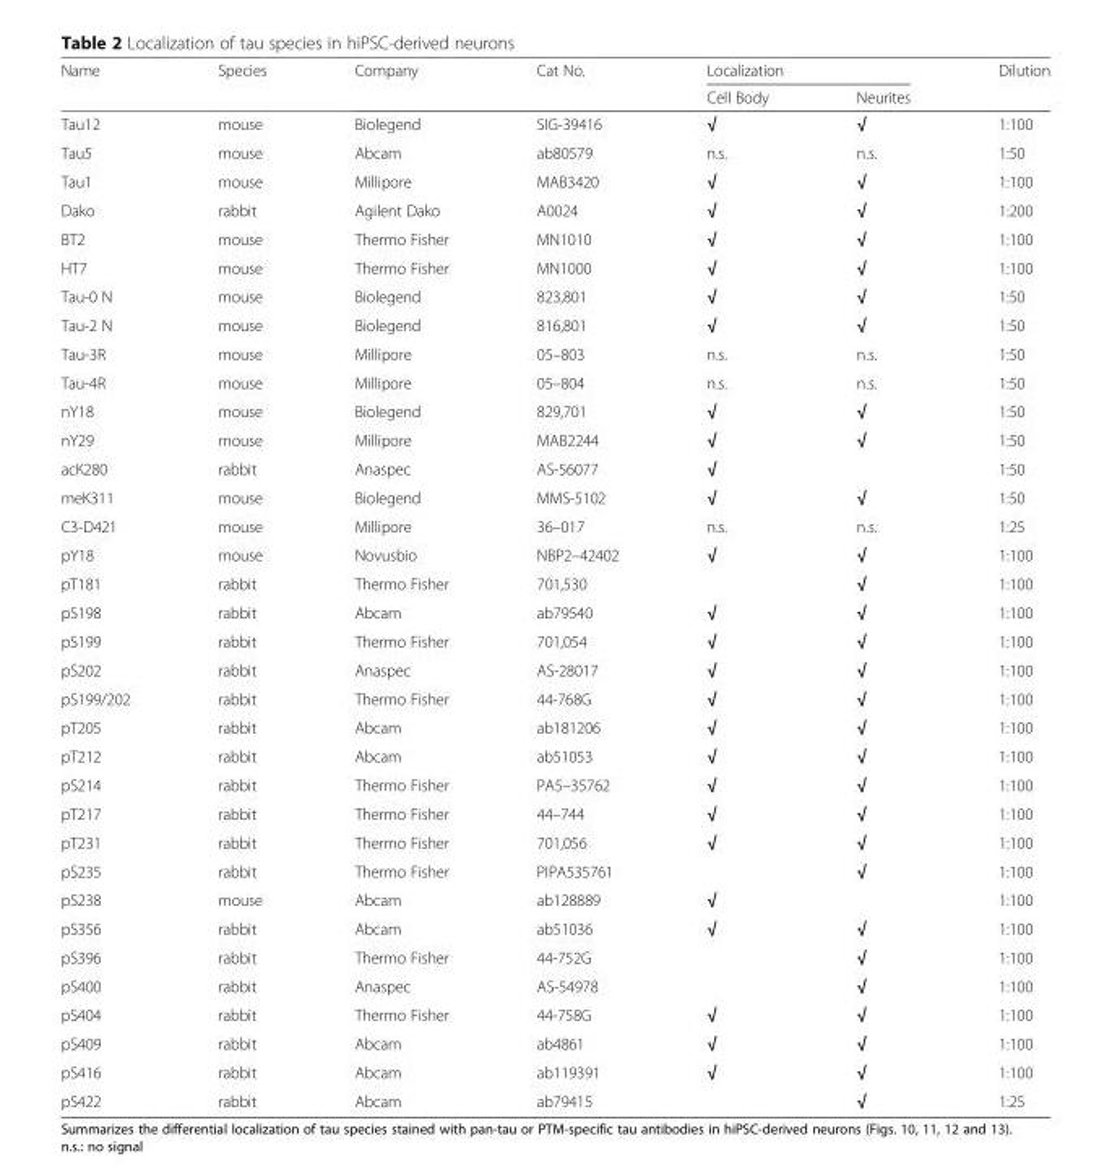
<table><thead><tr><td rowspan="2">Name</td><td rowspan="2">Species</td><td rowspan="2">Company</td><td rowspan="2">Cat No.</td><td colspan="2">Localization</td><td rowspan="2">Dilution</td></tr><tr><td>Cell Body</td><td>Neurites</td></tr></thead><tbody><tr><td>Tau12</td><td>mouse</td><td>Biolegend</td><td>SIG-39416</td><td>√</td><td>√</td><td>1:100</td></tr><tr><td>Tau5</td><td>mouse</td><td>Abcam</td><td>ab80579</td><td>n.s.</td><td>n.s.</td><td>1:50</td></tr><tr><td>Tau1</td><td>mouse</td><td>Millipore</td><td>MAB3420</td><td>√</td><td>√</td><td>1:100</td></tr><tr><td>Dako</td><td>rabbit</td><td>Agilent Dako</td><td>A0024</td><td>√</td><td>√</td><td>1:200</td></tr><tr><td>BT2</td><td>mouse</td><td>Thermo Fisher</td><td>MN1010</td><td>√</td><td>√</td><td>1:100</td></tr><tr><td>HT7</td><td>mouse</td><td>Thermo Fisher</td><td>MN1000</td><td>√</td><td>√</td><td>1:100</td></tr><tr><td>Tau-0 N</td><td>mouse</td><td>Biolegend</td><td>823,801</td><td>√</td><td>√</td><td>1:50</td></tr><tr><td>Tau-2 N</td><td>mouse</td><td>Biolegend</td><td>816,801</td><td>√</td><td>√</td><td>1:50</td></tr><tr><td>Tau-3R</td><td>mouse</td><td>Millipore</td><td>05–803</td><td>n.s.</td><td>n.s.</td><td>1:50</td></tr><tr><td>Tau-4R</td><td>mouse</td><td>Millipore</td><td>05–804</td><td>n.s.</td><td>n.s.</td><td>1:50</td></tr><tr><td>nY18</td><td>mouse</td><td>Biolegend</td><td>829,701</td><td>√</td><td>√</td><td>1:50</td></tr><tr><td>nY29</td><td>mouse</td><td>Millipore</td><td>MAB2244</td><td>√</td><td>√</td><td>1:50</td></tr><tr><td>acK280</td><td>rabbit</td><td>Anaspec</td><td>AS-56077</td><td>√</td><td></td><td>1:50</td></tr><tr><td>meK311</td><td>mouse</td><td>Biolegend</td><td>MMS-5102</td><td>√</td><td>√</td><td>1:50</td></tr><tr><td>C3-D421</td><td>mouse</td><td>Millipore</td><td>36–017</td><td>n.s.</td><td>n.s.</td><td>1:25</td></tr><tr><td>pY18</td><td>mouse</td><td>Novusbio</td><td>NBP2–42402</td><td>√</td><td>√</td><td>1:100</td></tr><tr><td>pT181</td><td>rabbit</td><td>Thermo Fisher</td><td>701,530</td><td></td><td>√</td><td>1:100</td></tr><tr><td>pS198</td><td>rabbit</td><td>Abcam</td><td>ab79540</td><td>√</td><td>√</td><td>1:100</td></tr><tr><td>pS199</td><td>rabbit</td><td>Thermo Fisher</td><td>701,054</td><td>√</td><td>√</td><td>1:100</td></tr><tr><td>pS202</td><td>rabbit</td><td>Anaspec</td><td>AS-28017</td><td>√</td><td>√</td><td>1:100</td></tr><tr><td>pS199/202</td><td>rabbit</td><td>Thermo Fisher</td><td>44-768G</td><td>√</td><td>√</td><td>1:100</td></tr><tr><td>pT205</td><td>rabbit</td><td>Abcam</td><td>ab181206</td><td>√</td><td>√</td><td>1:100</td></tr><tr><td>pT212</td><td>rabbit</td><td>Abcam</td><td>ab51053</td><td>√</td><td>√</td><td>1:100</td></tr><tr><td>pS214</td><td>rabbit</td><td>Thermo Fisher</td><td>PA5–35762</td><td>√</td><td>√</td><td>1:100</td></tr><tr><td>pT217</td><td>rabbit</td><td>Thermo Fisher</td><td>44–744</td><td>√</td><td>√</td><td>1:100</td></tr><tr><td>pT231</td><td>rabbit</td><td>Thermo Fisher</td><td>701,056</td><td>√</td><td>√</td><td>1:100</td></tr><tr><td>pS235</td><td>rabbit</td><td>Thermo Fisher</td><td>PIPA535761</td><td></td><td>√</td><td>1:100</td></tr><tr><td>pS238</td><td>mouse</td><td>Abcam</td><td>ab128889</td><td>√</td><td></td><td>1:100</td></tr><tr><td>pS356</td><td>rabbit</td><td>Abcam</td><td>ab51036</td><td>√</td><td>√</td><td>1:100</td></tr><tr><td>pS396</td><td>rabbit</td><td>Thermo Fisher</td><td>44-752G</td><td></td><td>√</td><td>1:100</td></tr><tr><td>pS400</td><td>rabbit</td><td>Anaspec</td><td>AS-54978</td><td></td><td>√</td><td>1:100</td></tr><tr><td>pS404</td><td>rabbit</td><td>Thermo Fisher</td><td>44-758G</td><td>√</td><td>√</td><td>1:100</td></tr><tr><td>pS409</td><td>rabbit</td><td>Abcam</td><td>ab4861</td><td>√</td><td>√</td><td>1:100</td></tr><tr><td>pS416</td><td>rabbit</td><td>Abcam</td><td>ab119391</td><td>√</td><td>√</td><td>1:100</td></tr><tr><td>pS422</td><td>rabbit</td><td>Abcam</td><td>ab79415</td><td></td><td>√</td><td>1:25</td></tr></tbody></table>